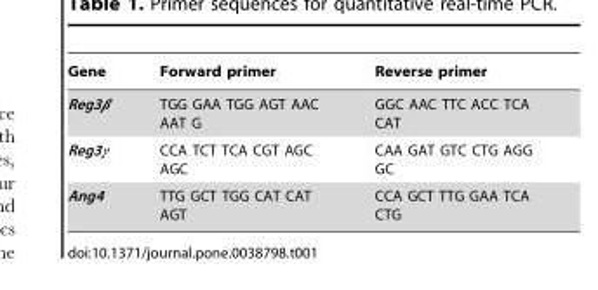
<table><thead><tr><td>Gene</td><td>Forward primer</td><td>Reverse primer</td></tr></thead><tbody><tr><td>Reg3β</td><td>TGG GAA TGG AGT AAC AAT G</td><td>GGC AAC TTC ACC TCA CAT</td></tr><tr><td>Reg3γ</td><td>CCA TCT TCA CGT AGC AGC</td><td>CAA GAT GTC CTG AGG GC</td></tr><tr><td>Ang4</td><td>TTG GCT TGG CAT CAT AGT</td><td>CCA GCT TTG GAA TCA CTG</td></tr></tbody></table>